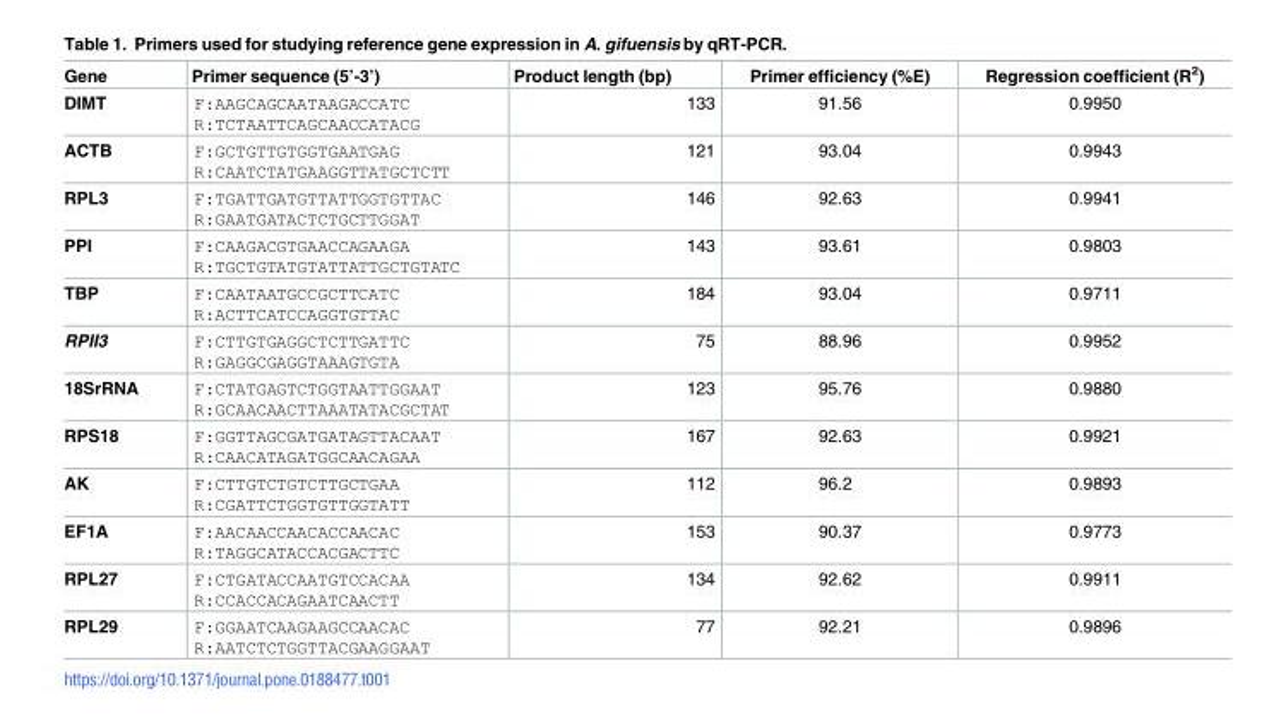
<table><thead><tr><td>Gene</td><td>Primer sequence (5’-3’)</td><td>Product length (bp)</td><td>Primer efficiency (%E)</td><td>Regression coefficient (R<sup>2</sup>)</td></tr></thead><tbody><tr><td>DIMT</td><td>F:AAGCAGCAATAAGACCATC R:TCTAATTCAGCAACCATACG</td><td>133</td><td>91.56</td><td>0.9950</td></tr><tr><td>ACTB</td><td>F:GCTGTTGTGGTGAATGAG R:CAATCTATGAAGGTTATGCTCTT</td><td>121</td><td>93.04</td><td>0.9943</td></tr><tr><td>RPL3</td><td>F:TGATTGATGTTATTGGTGTTAC R:GAATGATACTCTGCTTGGAT</td><td>146</td><td>92.63</td><td>0.9941</td></tr><tr><td>PPI</td><td>F:CAAGACGTGAACCAGAAGA R:TGCTGTATGTATTATTGCTGTATC</td><td>143</td><td>93.61</td><td>0.9803</td></tr><tr><td>TBP</td><td>F:CAATAATGCCGCTTCATC R:ACTTCATCCAGGTGTTAC</td><td>184</td><td>93.04</td><td>0.9711</td></tr><tr><td>RPII3</td><td>F:CTTGTGAGGCTCTTGATTC R:GAGGCGAGGTAAAGTGTA</td><td>75</td><td>88.96</td><td>0.9952</td></tr><tr><td>18SrRNA</td><td>F:CTATGAGTCTGGTAATTGGAAT R:GCAACAACTTAAATATACGCTAT</td><td>123</td><td>95.76</td><td>0.9880</td></tr><tr><td>RPS18</td><td>F:GGTTAGCGATGATAGTTACAAT R:CAACATAGATGGCAACAGAA</td><td>167</td><td>92.63</td><td>0.9921</td></tr><tr><td>AK</td><td>F:CTTGTCTGTCTTGCTGAA R:CGATTCTGGTGTTGGTATT</td><td>112</td><td>96.2</td><td>0.9893</td></tr><tr><td>EF1A</td><td>F:AACAACCAACACCAACAC R:TAGGCATACCACGACTTC</td><td>153</td><td>90.37</td><td>0.9773</td></tr><tr><td>RPL27</td><td>F:CTGATACCAATGTCCACAA R:CCACCACAGAATCAACTT</td><td>134</td><td>92.62</td><td>0.9911</td></tr><tr><td>RPL29</td><td>F:GGAATCAAGAAGCCAACAC R:AATCTCTGGTTACGAAGGAAT</td><td>77</td><td>92.21</td><td>0.9896</td></tr></tbody></table>